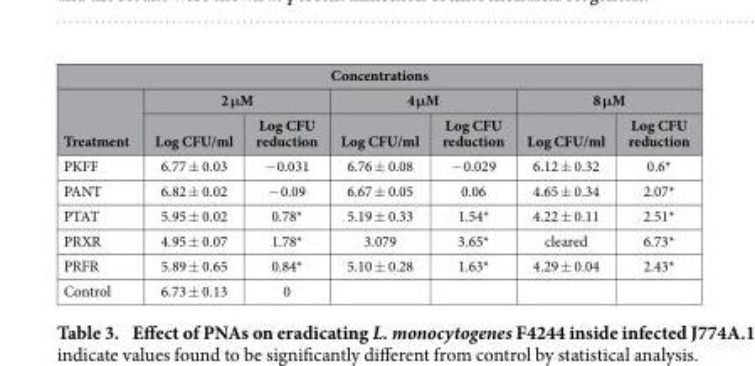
<table><thead><tr><td colspan="7">Concentrations</td></tr><tr><td rowspan="2">Treatment</td><td colspan="2">2 μM</td><td colspan="2">4 μM</td><td colspan="2">8 μM</td></tr><tr><td>Log CFU/ml</td><td>Log CFU reduction</td><td>Log CFU/ml</td><td>Log CFU reduction</td><td>Log CFU/ml</td><td>Log CFU reduction</td></tr></thead><tbody><tr><td>PKFF</td><td>6.77 ± 0.03</td><td>− 0.031</td><td>6.76 ± 0.08</td><td>− 0.029</td><td>6.12 ± 0.32</td><td>0.6*</td></tr><tr><td>PANT</td><td>6.82 ± 0.02</td><td>− 0.09</td><td>6.67 ± 0.05</td><td>0.06</td><td>4.65 ± 0.34</td><td>2.07*</td></tr><tr><td>PTAT</td><td>5.95 ± 0.02</td><td>0.78*</td><td>5.19 ± 0.33</td><td>1.54*</td><td>4.22 ± 0.11</td><td>2.51*</td></tr><tr><td>PRXR</td><td>4.95 ± 0.07</td><td>1.78*</td><td>3.079</td><td>3.65*</td><td>cleared</td><td>6.73*</td></tr><tr><td>PRFR</td><td>5.89 ± 0.65</td><td>0.84*</td><td>5.10 ± 0.28</td><td>1.63*</td><td>4.29 ± 0.04</td><td>2.43*</td></tr><tr><td>Control</td><td>6.73 ± 0.13</td><td>0</td><td></td><td></td><td></td><td></td></tr></tbody></table>